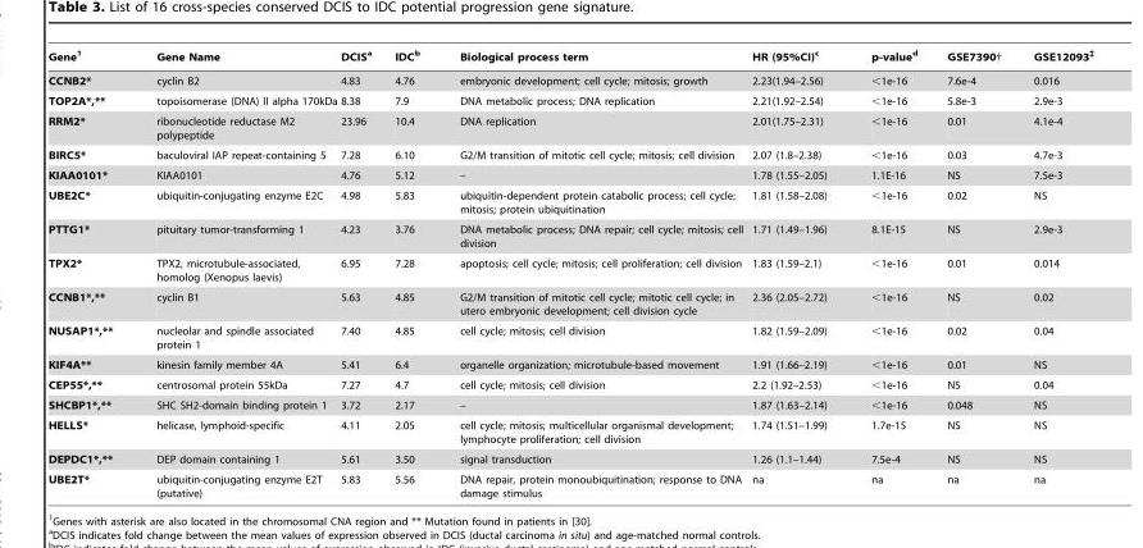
<table><thead><tr><td>Gene<sup>1</sup></td><td>Gene Name</td><td>DCIS<sup>a</sup></td><td>IDC<sup>b</sup></td><td>Biological process term</td><td>HR (95%CI)<sup>c</sup></td><td>p-value<sup>d</sup></td><td>GSE7390†</td><td>GSE12093<sup>‡</sup></td></tr></thead><tbody><tr><td>CCNB2*</td><td>cyclin B2</td><td>4.83</td><td>4.76</td><td>embryonic development; cell cycle; mitosis; growth</td><td>2.23(1.94–2.56)</td><td>&lt;1e-16</td><td>7.6e-4</td><td>0.016</td></tr><tr><td>TOP2A*,**</td><td>topoisomerase (DNA) II alpha 170kDa</td><td>8.38</td><td>7.9</td><td>DNA metabolic process; DNA replication</td><td>2.21(1.92–2.54)</td><td>&lt;1e-16</td><td>5.8e-3</td><td>2.9e-3</td></tr><tr><td>RRM2*</td><td>ribonucleotide reductase M2 polypeptide</td><td>23.96</td><td>10.4</td><td>DNA replication</td><td>2.01(1.75–2.31)</td><td>&lt;1e-16</td><td>0.01</td><td>4.1e-4</td></tr><tr><td>BIRC5*</td><td>baculoviral IAP repeat-containing 5</td><td>7.28</td><td>6.10</td><td>G2/M transition of mitotic cell cycle; mitosis; cell division</td><td>2.07 (1.8–2.38)</td><td>&lt;1e-16</td><td>0.03</td><td>4.7e-3</td></tr><tr><td>KIAA0101*</td><td>KIAA0101</td><td>4.76</td><td>5.12</td><td>–</td><td>1.78 (1.55–2.05)</td><td>1.1E-16</td><td>NS</td><td>7.5e-3</td></tr><tr><td>UBE2C*</td><td>ubiquitin-conjugating enzyme E2C</td><td>4.98</td><td>5.83</td><td>ubiquitin-dependent protein catabolic process; cell cycle; mitosis; protein ubiquitination</td><td>1.81 (1.58–2.08)</td><td>&lt;1e-16</td><td>0.02</td><td>NS</td></tr><tr><td>PTTG1*</td><td>pituitary tumor-transforming 1</td><td>4.23</td><td>3.76</td><td>DNA metabolic process; DNA repair; cell cycle; mitosis; cell division</td><td>1.71 (1.49–1.96)</td><td>8.1E-15</td><td>NS</td><td>2.9e-3</td></tr><tr><td>TPX2*</td><td>TPX2, microtubule-associated, homolog (Xenopus laevis)</td><td>6.95</td><td>7.28</td><td>apoptosis; cell cycle; mitosis; cell proliferation; cell division</td><td>1.83 (1.59–2.1)</td><td>&lt;1e-16</td><td>0.01</td><td>0.014</td></tr><tr><td>CCNB1*,**</td><td>cyclin B1</td><td>5.63</td><td>4.85</td><td>G2/M transition of mitotic cell cycle; mitotic cell cycle; in utero embryonic development; cell division cycle</td><td>2.36 (2.05–2.72)</td><td>&lt;1e-16</td><td>NS</td><td>0.02</td></tr><tr><td>NUSAP1*,**</td><td>nucleolar and spindle associated protein 1</td><td>7.40</td><td>4.85</td><td>cell cycle; mitosis; cell division</td><td>1.82 (1.59–2.09)</td><td>&lt;1e-16</td><td>0.02</td><td>0.04</td></tr><tr><td>KIF4A**</td><td>kinesin family member 4A</td><td>5.41</td><td>6.4</td><td>organelle organization; microtubule-based movement</td><td>1.91 (1.66–2.19)</td><td>&lt;1e-16</td><td>0.01</td><td>NS</td></tr><tr><td>CEP55*,**</td><td>centrosomal protein 55kDa</td><td>7.27</td><td>4.7</td><td>cell cycle; mitosis; cell division</td><td>2.2 (1.92–2.53)</td><td>&lt;1e-16</td><td>NS</td><td>0.04</td></tr><tr><td>SHCBP1*,**</td><td>SHC SH2-domain binding protein 1</td><td>3.72</td><td>2.17</td><td>–</td><td>1.87 (1.63–2.14)</td><td>&lt;1e-16</td><td>0.048</td><td>NS</td></tr><tr><td>HELLS*</td><td>helicase, lymphoid-specific</td><td>4.11</td><td>2.05</td><td>cell cycle; mitosis; multicellular organismal development; lymphocyte proliferation; cell division</td><td>1.74 (1.51–1.99)</td><td>1.7e-15</td><td>NS</td><td>NS</td></tr><tr><td>DEPDC1*,**</td><td>DEP domain containing 1</td><td>5.61</td><td>3.50</td><td>signal transduction</td><td>1.26 (1.1–1.44)</td><td>7.5e-4</td><td>NS</td><td>NS</td></tr><tr><td>UBE2T*</td><td>ubiquitin-conjugating enzyme E2T (putative)</td><td>5.83</td><td>5.56</td><td>DNA repair, protein monoubiquitination; response to DNA damage stimulus</td><td>na</td><td>na</td><td>na</td><td>na</td></tr></tbody></table>